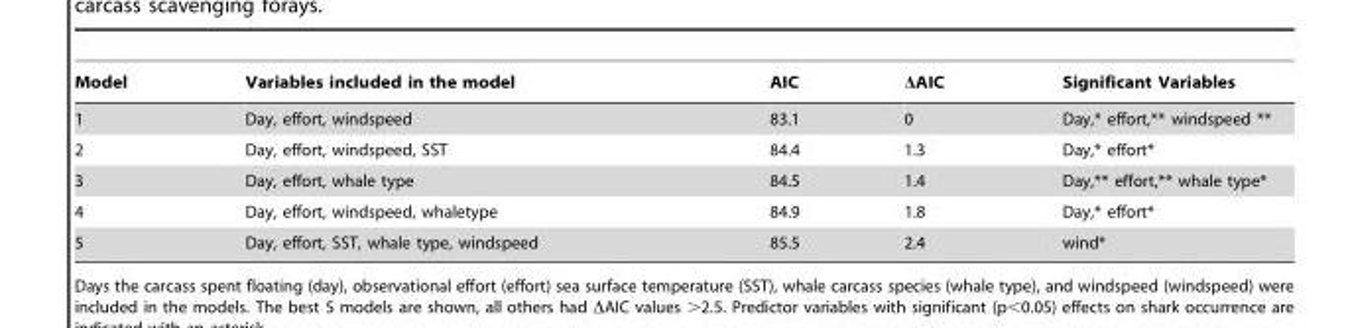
<table><thead><tr><td>Model</td><td>Variables included in the model</td><td>AIC</td><td>ΔAIC</td><td>Significant Variables</td></tr></thead><tbody><tr><td>1</td><td>Day, effort, windspeed</td><td>83.1</td><td>0</td><td>Day,* effort,** windspeed **</td></tr><tr><td>2</td><td>Day, effort, windspeed, SST</td><td>84.4</td><td>1.3</td><td>Day,* effort*</td></tr><tr><td>3</td><td>Day, effort, whale type</td><td>84.5</td><td>1.4</td><td>Day,** effort,** whale type*</td></tr><tr><td>4</td><td>Day, effort, windspeed, whaletype</td><td>84.9</td><td>1.8</td><td>Day,* effort*</td></tr><tr><td>5</td><td>Day, effort, SST, whale type, windspeed</td><td>85.5</td><td>2.4</td><td>wind*</td></tr></tbody></table>